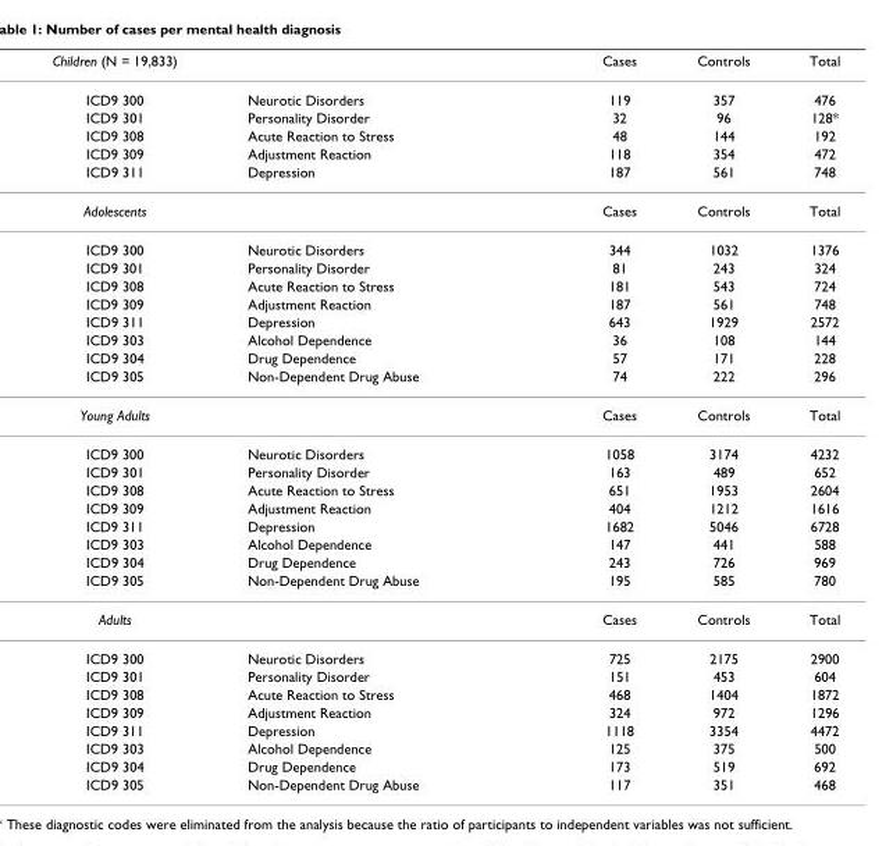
<table><thead><tr><td>Children (N = 19,833)</td><td></td><td>Cases</td><td>Controls</td><td>Total</td></tr></thead><tbody><tr><td>ICD9 300</td><td>Neurotic Disorders</td><td>119</td><td>357</td><td>476</td></tr><tr><td>ICD9 301</td><td>Personality Disorder</td><td>32</td><td>96</td><td>128*</td></tr><tr><td>ICD9 308</td><td>Acute Reaction to Stress</td><td>48</td><td>144</td><td>192</td></tr><tr><td>ICD9 309</td><td>Adjustment Reaction</td><td>118</td><td>354</td><td>472</td></tr><tr><td>ICD9 311</td><td>Depression</td><td>187</td><td>561</td><td>748</td></tr><tr><td>Adolescents</td><td></td><td>Cases</td><td>Controls</td><td>Total</td></tr><tr><td>ICD9 300</td><td>Neurotic Disorders</td><td>344</td><td>1032</td><td>1376</td></tr><tr><td>ICD9 301</td><td>Personality Disorder</td><td>81</td><td>243</td><td>324</td></tr><tr><td>ICD9 308</td><td>Acute Reaction to Stress</td><td>181</td><td>543</td><td>724</td></tr><tr><td>ICD9 309</td><td>Adjustment Reaction</td><td>187</td><td>561</td><td>748</td></tr><tr><td>ICD9 311</td><td>Depression</td><td>643</td><td>1929</td><td>2572</td></tr><tr><td>ICD9 303</td><td>Alcohol Dependence</td><td>36</td><td>108</td><td>144</td></tr><tr><td>ICD9 304</td><td>Drug Dependence</td><td>57</td><td>171</td><td>228</td></tr><tr><td>ICD9 305</td><td>Non-Dependent Drug Abuse</td><td>74</td><td>222</td><td>296</td></tr><tr><td>Young Adults</td><td></td><td>Cases</td><td>Controls</td><td>Total</td></tr><tr><td>ICD9 300</td><td>Neurotic Disorders</td><td>1058</td><td>3174</td><td>4232</td></tr><tr><td>ICD9 301</td><td>Personality Disorder</td><td>163</td><td>489</td><td>652</td></tr><tr><td>ICD9 308</td><td>Acute Reaction to Stress</td><td>651</td><td>1953</td><td>2604</td></tr><tr><td>ICD9 309</td><td>Adjustment Reaction</td><td>404</td><td>1212</td><td>1616</td></tr><tr><td>ICD9 311</td><td>Depression</td><td>1682</td><td>5046</td><td>6728</td></tr><tr><td>ICD9 303</td><td>Alcohol Dependence</td><td>147</td><td>441</td><td>588</td></tr><tr><td>ICD9 304</td><td>Drug Dependence</td><td>243</td><td>726</td><td>969</td></tr><tr><td>ICD9 305</td><td>Non-Dependent Drug Abuse</td><td>195</td><td>585</td><td>780</td></tr><tr><td>Adults</td><td></td><td>Cases</td><td>Controls</td><td>Total</td></tr><tr><td>ICD9 300</td><td>Neurotic Disorders</td><td>725</td><td>2175</td><td>2900</td></tr><tr><td>ICD9 301</td><td>Personality Disorder</td><td>151</td><td>453</td><td>604</td></tr><tr><td>ICD9 308</td><td>Acute Reaction to Stress</td><td>468</td><td>1404</td><td>1872</td></tr><tr><td>ICD9 309</td><td>Adjustment Reaction</td><td>324</td><td>972</td><td>1296</td></tr><tr><td>ICD9 311</td><td>Depression</td><td>1118</td><td>3354</td><td>4472</td></tr><tr><td>ICD9 303</td><td>Alcohol Dependence</td><td>125</td><td>375</td><td>500</td></tr><tr><td>ICD9 304</td><td>Drug Dependence</td><td>173</td><td>519</td><td>692</td></tr><tr><td>ICD9 305</td><td>Non-Dependent Drug Abuse</td><td>117</td><td>351</td><td>468</td></tr></tbody></table>